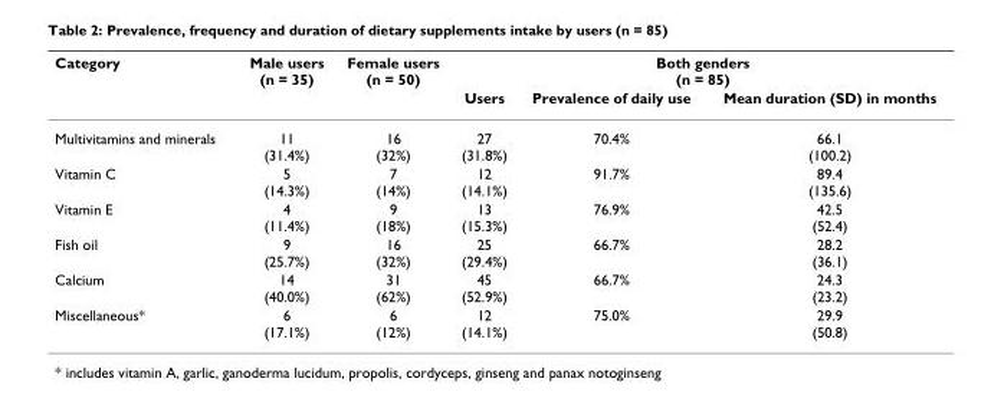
<table><thead><tr><td rowspan="2">Category</td><td rowspan="2">Male users (n = 35)</td><td rowspan="2">Female users (n = 50)</td><td colspan="3">Both genders (n = 85)</td></tr><tr><td>Users</td><td>Prevalence of daily use</td><td>Mean duration (SD) in months</td></tr></thead><tbody><tr><td>Multivitamins and minerals</td><td>11 (31.4%)</td><td>16 (32%)</td><td>27 (31.8%)</td><td>70.4%</td><td>66.1 (100.2)</td></tr><tr><td>Vitamin C</td><td>5 (14.3%)</td><td>7 (14%)</td><td>12 (14.1%)</td><td>91.7%</td><td>89.4 (135.6)</td></tr><tr><td>Vitamin E</td><td>4 (11.4%)</td><td>9 (18%)</td><td>13 (15.3%)</td><td>76.9%</td><td>42.5 (52.4)</td></tr><tr><td>Fish oil</td><td>9 (25.7%)</td><td>16 (32%)</td><td>25 (29.4%)</td><td>66.7%</td><td>28.2 (36.1)</td></tr><tr><td>Calcium</td><td>14 (40.0%)</td><td>31 (62%)</td><td>45 (52.9%)</td><td>66.7%</td><td>24.3 (23.2)</td></tr><tr><td>Miscellaneous*</td><td>6 (17.1%)</td><td>6 (12%)</td><td>12 (14.1%)</td><td>75.0%</td><td>29.9 (50.8)</td></tr></tbody></table>